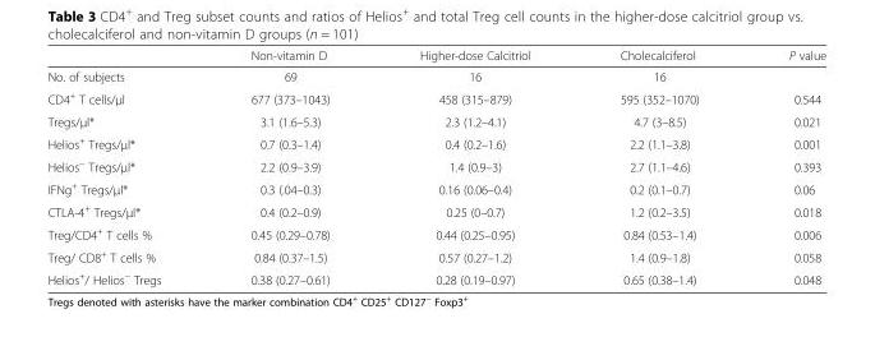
<table><thead><tr><td></td><td>Non-vitamin D</td><td>Higher-dose Calcitriol</td><td>Cholecalciferol</td><td>P value</td></tr></thead><tbody><tr><td>No. of subjects</td><td>69</td><td>16</td><td>16</td><td></td></tr><tr><td>CD4<sup>+</sup> T cells/μl</td><td>677 (373–1043)</td><td>458 (315–879)</td><td>595 (352–1070)</td><td>0.544</td></tr><tr><td>Tregs/μl*</td><td>3.1 (1.6–5.3)</td><td>2.3 (1.2–4.1)</td><td>4.7 (3–8.5)</td><td>0.021</td></tr><tr><td>Helios<sup>+</sup> Tregs/μl*</td><td>0.7 (0.3–1.4)</td><td>0.4 (0.2–1.6)</td><td>2.2 (1.1–3.8)</td><td>0.001</td></tr><tr><td>Helios<sup>−</sup> Tregs/μl*</td><td>2.2 (0.9–3.9)</td><td>1.4 (0.9–3)</td><td>2.7 (1.1–4.6)</td><td>0.393</td></tr><tr><td>IFNg<sup>+</sup> Tregs/μl*</td><td>0.3 (.04–0.3)</td><td>0.16 (0.06–0.4)</td><td>0.2 (0.1–0.7)</td><td>0.06</td></tr><tr><td>CTLA-4<sup>+</sup> Tregs/μl*</td><td>0.4 (0.2–0.9)</td><td>0.25 (0–0.7)</td><td>1.2 (0.2–3.5)</td><td>0.018</td></tr><tr><td>Treg/CD4<sup>+</sup> T cells %</td><td>0.45 (0.29–0.78)</td><td>0.44 (0.25–0.95)</td><td>0.84 (0.53–1.4)</td><td>0.006</td></tr><tr><td>Treg/ CD8<sup>+</sup> T cells %</td><td>0.84 (0.37–1.5)</td><td>0.57 (0.27–1.2)</td><td>1.4 (0.9–1.8)</td><td>0.058</td></tr><tr><td>Helios<sup>+</sup>/ Helios<sup>−</sup> Tregs</td><td>0.38 (0.27–0.61)</td><td>0.28 (0.19–0.97)</td><td>0.65 (0.38–1.4)</td><td>0.048</td></tr></tbody></table>